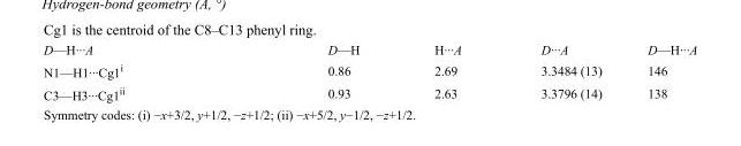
<table><tbody><tr><td>D—H···A</td><td>D—H</td><td>H···A</td><td>D···A</td><td>D—H···A</td></tr><tr><td>N1—H1···Cg1<sup>i</sup></td><td>0.86</td><td>2.69</td><td>3.3484 (13)</td><td>146</td></tr><tr><td>C3—H3···Cg1<sup>ii</sup></td><td>0.93</td><td>2.63</td><td>3.3796 (14)</td><td>138</td></tr></tbody></table>